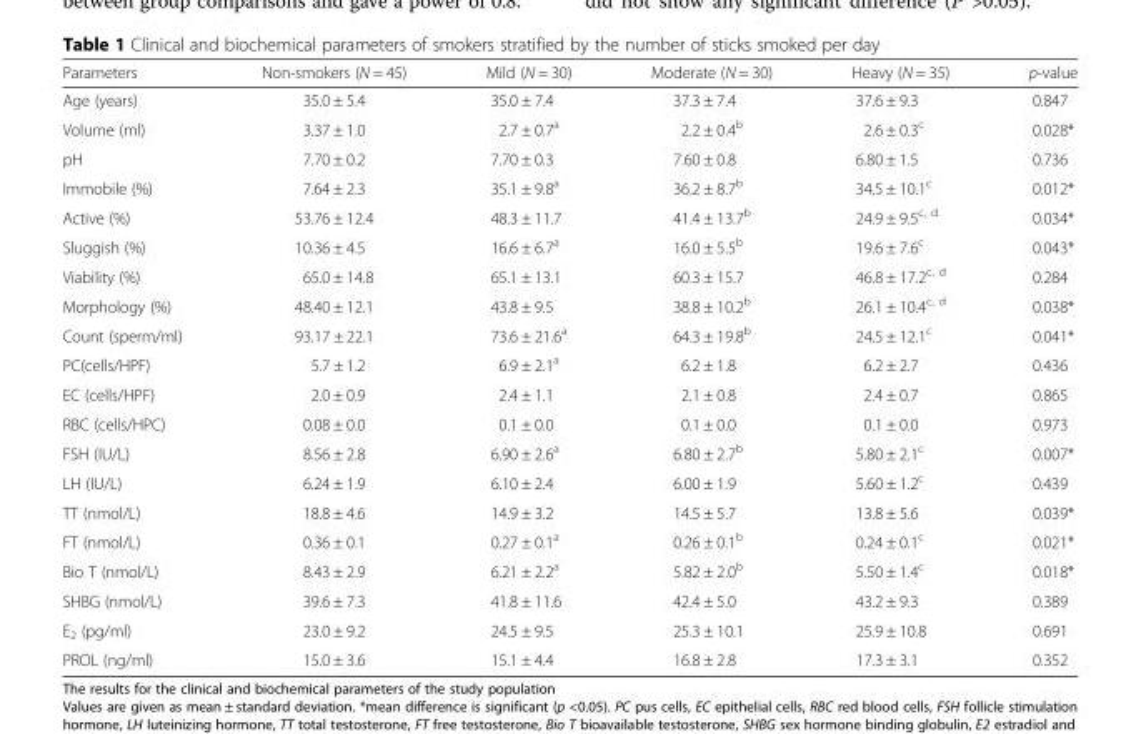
<table><thead><tr><td>Parameters</td><td>Non-smokers (N = 45)</td><td>Mild (N = 30)</td><td>Moderate (N = 30)</td><td>Heavy (N = 35)</td><td>p-value</td></tr></thead><tbody><tr><td>Age (years)</td><td>35.0 ± 5.4</td><td>35.0 ± 7.4</td><td>37.3 ± 7.4</td><td>37.6 ± 9.3</td><td>0.847</td></tr><tr><td>Volume (ml)</td><td>3.37 ± 1.0</td><td>2.7 ± 0.7<sup>a</sup></td><td>2.2 ± 0.4<sup>b</sup></td><td>2.6 ± 0.3<sup>c</sup></td><td>0.028*</td></tr><tr><td>pH</td><td>7.70 ± 0.2</td><td>7.70 ± 0.3</td><td>7.60 ± 0.8</td><td>6.80 ± 1.5</td><td>0.736</td></tr><tr><td>Immobile (%)</td><td>7.64 ± 2.3</td><td>35.1 ± 9.8<sup>a</sup></td><td>36.2 ± 8.7<sup>b</sup></td><td>34.5 ± 10.1<sup>c</sup></td><td>0.012*</td></tr><tr><td>Active (%)</td><td>53.76 ± 12.4</td><td>48.3 ± 11.7</td><td>41.4 ± 13.7<sup>b</sup></td><td>24.9 ± 9.5<sup>c, d</sup></td><td>0.034*</td></tr><tr><td>Sluggish (%)</td><td>10.36 ± 4.5</td><td>16.6 ± 6.7<sup>a</sup></td><td>16.0 ± 5.5<sup>b</sup></td><td>19.6 ± 7.6<sup>c</sup></td><td>0.043*</td></tr><tr><td>Viability (%)</td><td>65.0 ± 14.8</td><td>65.1 ± 13.1</td><td>60.3 ± 15.7</td><td>46.8 ± 17.2<sup>c, d</sup></td><td>0.284</td></tr><tr><td>Morphology (%)</td><td>48.40 ± 12.1</td><td>43.8 ± 9.5</td><td>38.8 ± 10.2<sup>b</sup></td><td>26.1 ± 10.4<sup>c, d</sup></td><td>0.038*</td></tr><tr><td>Count (sperm/ml)</td><td>93.17 ± 22.1</td><td>73.6 ± 21.6<sup>a</sup></td><td>64.3 ± 19.8<sup>b</sup></td><td>24.5 ± 12.1<sup>c</sup></td><td>0.041*</td></tr><tr><td>PC(cells/HPF)</td><td>5.7 ± 1.2</td><td>6.9 ± 2.1<sup>a</sup></td><td>6.2 ± 1.8</td><td>6.2 ± 2.7</td><td>0.436</td></tr><tr><td>EC (cells/HPF)</td><td>2.0 ± 0.9</td><td>2.4 ± 1.1</td><td>2.1 ± 0.8</td><td>2.4 ± 0.7</td><td>0.865</td></tr><tr><td>RBC (cells/HPC)</td><td>0.08 ± 0.0</td><td>0.1 ± 0.0</td><td>0.1 ± 0.0</td><td>0.1 ± 0.0</td><td>0.973</td></tr><tr><td>FSH (IU/L)</td><td>8.56 ± 2.8</td><td>6.90 ± 2.6<sup>a</sup></td><td>6.80 ± 2.7<sup>b</sup></td><td>5.80 ± 2.1<sup>c</sup></td><td>0.007*</td></tr><tr><td>LH (IU/L)</td><td>6.24 ± 1.9</td><td>6.10 ± 2.4</td><td>6.00 ± 1.9</td><td>5.60 ± 1.2<sup>c</sup></td><td>0.439</td></tr><tr><td>TT (nmol/L)</td><td>18.8 ± 4.6</td><td>14.9 ± 3.2</td><td>14.5 ± 5.7</td><td>13.8 ± 5.6</td><td>0.039*</td></tr><tr><td>FT (nmol/L)</td><td>0.36 ± 0.1</td><td>0.27 ± 0.1<sup>a</sup></td><td>0.26 ± 0.1<sup>b</sup></td><td>0.24 ± 0.1<sup>c</sup></td><td>0.021*</td></tr><tr><td>Bio T (nmol/L)</td><td>8.43 ± 2.9</td><td>6.21 ± 2.2<sup>a</sup></td><td>5.82 ± 2.0<sup>b</sup></td><td>5.50 ± 1.4<sup>c</sup></td><td>0.018*</td></tr><tr><td>SHBG (nmol/L)</td><td>39.6 ± 7.3</td><td>41.8 ± 11.6</td><td>42.4 ± 5.0</td><td>43.2 ± 9.3</td><td>0.389</td></tr><tr><td>E<sub>2</sub> (pg/ml)</td><td>23.0 ± 9.2</td><td>24.5 ± 9.5</td><td>25.3 ± 10.1</td><td>25.9 ± 10.8</td><td>0.691</td></tr><tr><td>PROL (ng/ml)</td><td>15.0 ± 3.6</td><td>15.1 ± 4.4</td><td>16.8 ± 2.8</td><td>17.3 ± 3.1</td><td>0.352</td></tr></tbody></table>